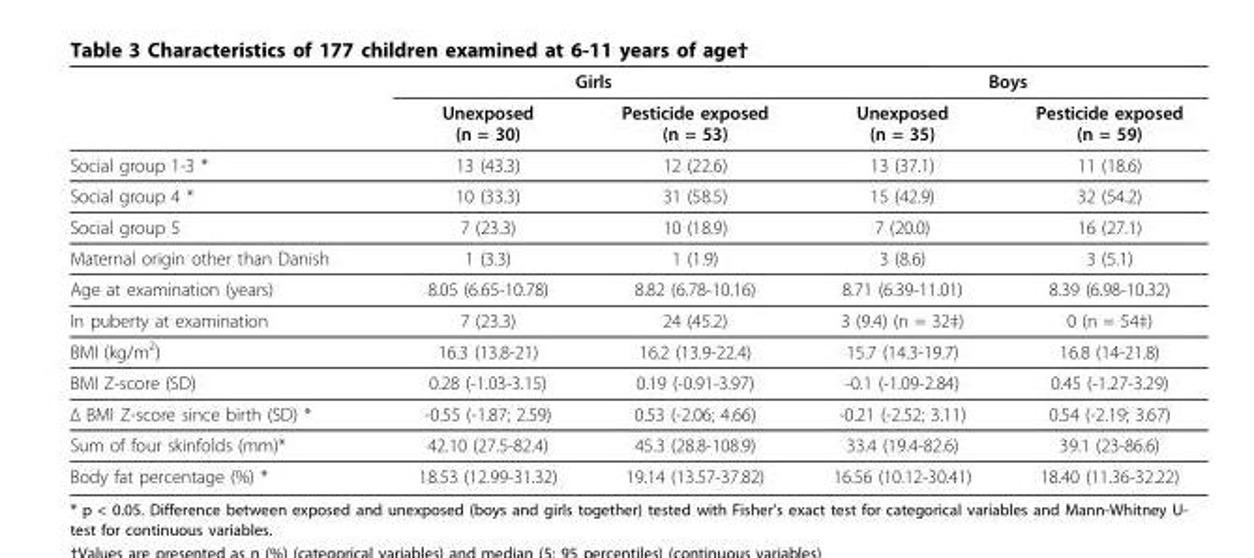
<table><thead><tr><td rowspan="2"></td><td colspan="2">Girls</td><td colspan="2">Boys</td></tr><tr><td>Unexposed (n = 30)</td><td>Pesticide exposed (n = 53)</td><td>Unexposed (n = 35)</td><td>Pesticide exposed (n = 59)</td></tr></thead><tbody><tr><td>Social group 1-3 *</td><td>13 (43.3)</td><td>12 (22.6)</td><td>13 (37.1)</td><td>11 (18.6)</td></tr><tr><td>Social group 4 *</td><td>10 (33.3)</td><td>31 (58.5)</td><td>15 (42.9)</td><td>32 (54.2)</td></tr><tr><td>Social group 5</td><td>7 (23.3)</td><td>10 (18.9)</td><td>7 (20.0)</td><td>16 (27.1)</td></tr><tr><td>Maternal origin other than Danish</td><td>1 (3.3)</td><td>1 (1.9)</td><td>3 (8.6)</td><td>3 (5.1)</td></tr><tr><td>Age at examination (years)</td><td>8.05 (6.65-10.78)</td><td>8.82 (6.78-10.16)</td><td>8.71 (6.39-11.01)</td><td>8.39 (6.98-10.32)</td></tr><tr><td>In puberty at examination</td><td>7 (23.3)</td><td>24 (45.2)</td><td>3 (9.4) (n = 32‡)</td><td>0 (n = 54‡)</td></tr><tr><td>BMI (kg/m<sup>2</sup>)</td><td>16.3 (13.8-21)</td><td>16.2 (13.9-22.4)</td><td>15.7 (14.3-19.7)</td><td>16.8 (14-21.8)</td></tr><tr><td>BMI Z-score (SD)</td><td>0.28 (-1.03-3.15)</td><td>0.19 (-0.91-3.97)</td><td>-0.1 (-1.09-2.84)</td><td>0.45 (-1.27-3.29)</td></tr><tr><td>Δ BMI Z-score since birth (SD) *</td><td>-0.55 (-1.87; 2.59)</td><td>0.53 (-2.06; 4.66)</td><td>-0.21 (-2.52; 3.11)</td><td>0.54 (-2.19; 3.67)</td></tr><tr><td>Sum of four skinfolds (mm)*</td><td>42.10 (27.5-82.4)</td><td>45.3 (28.8-108.9)</td><td>33.4 (19.4-82.6)</td><td>39.1 (23-86.6)</td></tr><tr><td>Body fat percentage (%) *</td><td>18.53 (12.99-31.32)</td><td>19.14 (13.57-37.82)</td><td>16.56 (10.12-30.41)</td><td>18.40 (11.36-32.22)</td></tr></tbody></table>